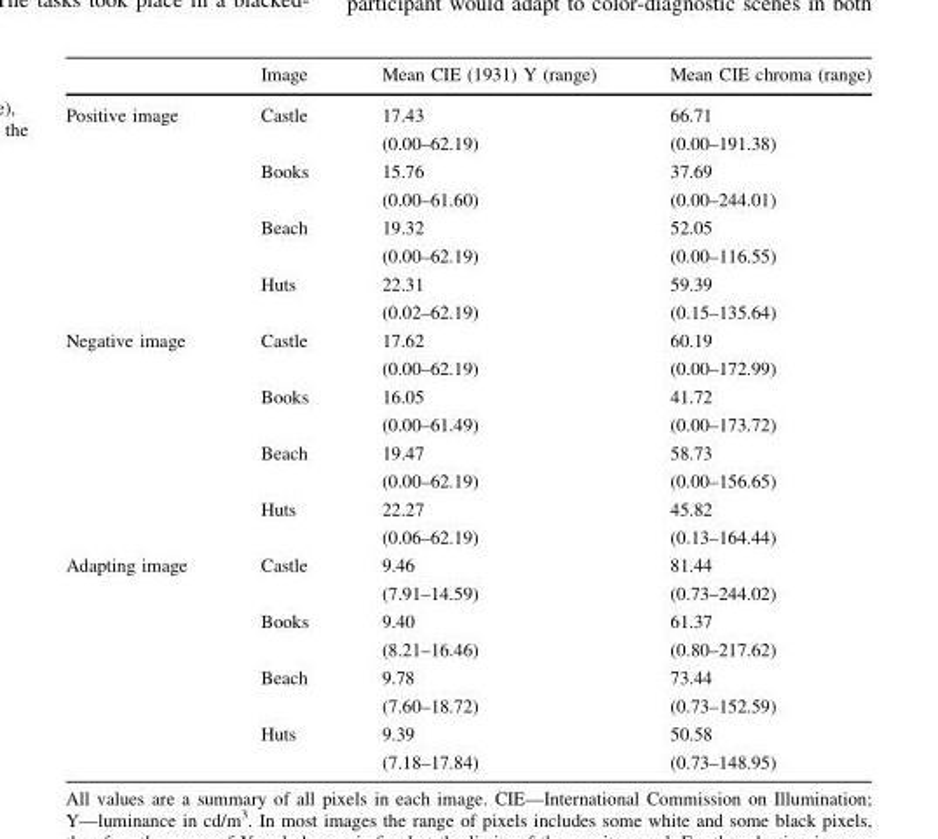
<table><thead><tr><td></td><td>Image</td><td>Mean CIE (1931) Y (range)</td><td>Mean CIE chroma (range)</td></tr></thead><tbody><tr><td rowspan="4">Positive image</td><td>Castle</td><td>17.43 (0.00–62.19)</td><td>66.71 (0.00–191.38)</td></tr><tr><td>Books</td><td>15.76 (0.00–61.60)</td><td>37.69 (0.00–244.01)</td></tr><tr><td>Beach</td><td>19.32 (0.00–62.19)</td><td>52.05 (0.00–116.55)</td></tr><tr><td>Huts</td><td>22.31 (0.02–62.19)</td><td>59.39 (0.15–135.64)</td></tr><tr><td rowspan="4">Negative image</td><td>Castle</td><td>17.62 (0.00–62.19)</td><td>60.19 (0.00–172.99)</td></tr><tr><td>Books</td><td>16.05 (0.00–61.49)</td><td>41.72 (0.00–173.72)</td></tr><tr><td>Beach</td><td>19.47 (0.00–62.19)</td><td>58.73 (0.00–156.65)</td></tr><tr><td>Huts</td><td>22.27 (0.06–62.19)</td><td>45.82 (0.13–164.44)</td></tr><tr><td rowspan="4">Adapting image</td><td>Castle</td><td>9.46 (7.91–14.59)</td><td>81.44 (0.73–244.02)</td></tr><tr><td>Books</td><td>9.40 (8.21–16.46)</td><td>61.37 (0.80–217.62)</td></tr><tr><td>Beach</td><td>9.78 (7.60–18.72)</td><td>73.44 (0.73–152.59)</td></tr><tr><td>Huts</td><td>9.39 (7.18–17.84)</td><td>50.58 (0.73–148.95)</td></tr></tbody></table>